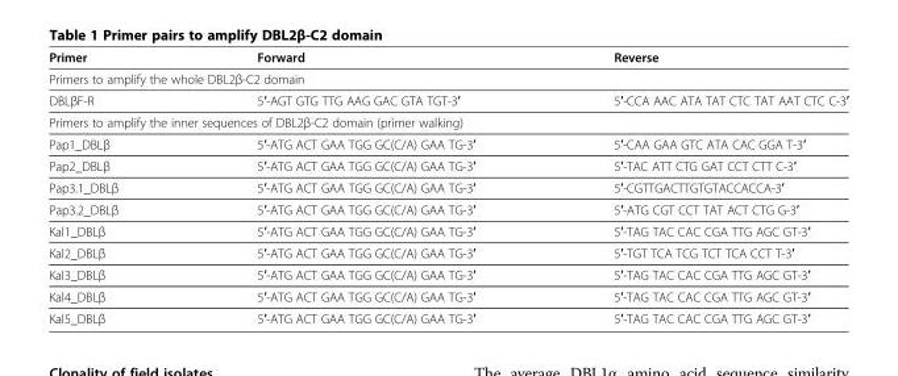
<table><thead><tr><td>Primer</td><td>Forward</td><td>Reverse</td></tr></thead><tbody><tr><td colspan="3">Primers to amplify the whole DBL2β-C2 domain</td></tr><tr><td>DBLβF-R</td><td>5′-AGT GTG TTG AAG GAC GTA TGT-3′</td><td>5′-CCA AAC ATA TAT CTC TAT AAT CTC C-3′</td></tr><tr><td colspan="3">Primers to amplify the inner sequences of DBL2β-C2 domain (primer walking)</td></tr><tr><td>Pap1_DBLβ</td><td>5′-ATG ACT GAA TGG GC(C/A) GAA TG-3′</td><td>5′-CAA GAA GTC ATA CAC GGA T-3′</td></tr><tr><td>Pap2_DBLβ</td><td>5′-ATG ACT GAA TGG GC(C/A) GAA TG-3′</td><td>5′-TAC ATT CTG GAT CCT CTT C-3′</td></tr><tr><td>Pap3.1_DBLβ</td><td>5′-ATG ACT GAA TGG GC(C/A) GAA TG-3′</td><td>5′-CGTTGACTTGTGTACCACCA-3′</td></tr><tr><td>Pap3.2_DBLβ</td><td>5′-ATG ACT GAA TGG GC(C/A) GAA TG-3′</td><td>5′-ATG CGT CCT TAT ACT CTG G-3′</td></tr><tr><td>Kal1_DBLβ</td><td>5′-ATG ACT GAA TGG GC(C/A) GAA TG-3′</td><td>5′-TAG TAC CAC CGA TTG AGC GT-3′</td></tr><tr><td>Kal2_DBLβ</td><td>5′-ATG ACT GAA TGG GC(C/A) GAA TG-3′</td><td>5′-TGT TCA TCG TCT TCA CCT T-3′</td></tr><tr><td>Kal3_DBLβ</td><td>5′-ATG ACT GAA TGG GC(C/A) GAA TG-3′</td><td>5′-TAG TAC CAC CGA TTG AGC GT-3′</td></tr><tr><td>Kal4_DBLβ</td><td>5′-ATG ACT GAA TGG GC(C/A) GAA TG-3′</td><td>5′-TAG TAC CAC CGA TTG AGC GT-3′</td></tr><tr><td>Kal5_DBLβ</td><td>5′-ATG ACT GAA TGG GC(C/A) GAA TG-3′</td><td>5′-TAG TAC CAC CGA TTG AGC GT-3′</td></tr></tbody></table>